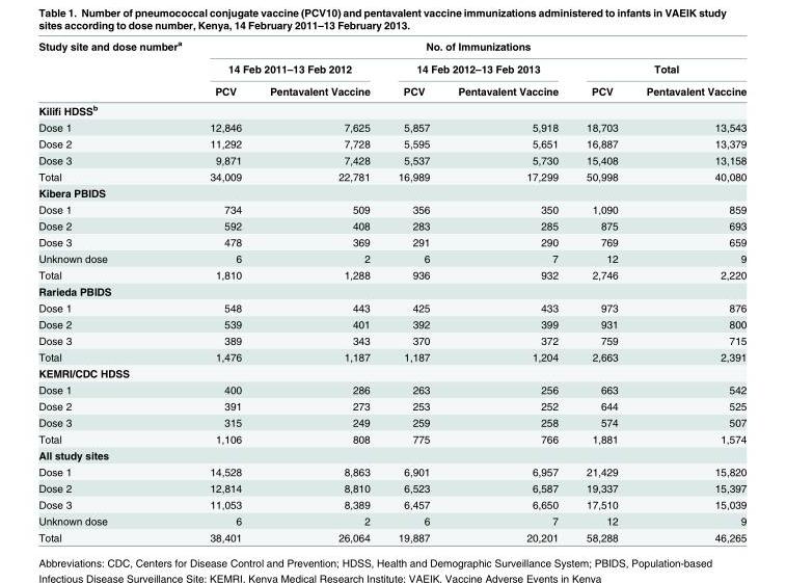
<table><thead><tr><td rowspan="3">Study site and dose number<sup>a</sup></td><td colspan="6">No. of Immunizations</td></tr><tr><td colspan="2">14 Feb 2011–13 Feb 2012</td><td colspan="2">14 Feb 2012–13 Feb 2013</td><td colspan="2">Total</td></tr><tr><td>PCV</td><td>Pentavalent Vaccine</td><td>PCV</td><td>Pentavalent Vaccine</td><td>PCV</td><td>Pentavalent Vaccine</td></tr></thead><tbody><tr><td colspan="7">Kilifi HDSS<sup>b</sup></td></tr><tr><td>Dose 1</td><td>12,846</td><td>7,625</td><td>5,857</td><td>5,918</td><td>18,703</td><td>13,543</td></tr><tr><td>Dose 2</td><td>11,292</td><td>7,728</td><td>5,595</td><td>5,651</td><td>16,887</td><td>13,379</td></tr><tr><td>Dose 3</td><td>9,871</td><td>7,428</td><td>5,537</td><td>5,730</td><td>15,408</td><td>13,158</td></tr><tr><td>Total</td><td>34,009</td><td>22,781</td><td>16,989</td><td>17,299</td><td>50,998</td><td>40,080</td></tr><tr><td colspan="7">Kibera PBIDS</td></tr><tr><td>Dose 1</td><td>734</td><td>509</td><td>356</td><td>350</td><td>1,090</td><td>859</td></tr><tr><td>Dose 2</td><td>592</td><td>408</td><td>283</td><td>285</td><td>875</td><td>693</td></tr><tr><td>Dose 3</td><td>478</td><td>369</td><td>291</td><td>290</td><td>769</td><td>659</td></tr><tr><td>Unknown dose</td><td>6</td><td>2</td><td>6</td><td>7</td><td>12</td><td>9</td></tr><tr><td>Total</td><td>1,810</td><td>1,288</td><td>936</td><td>932</td><td>2,746</td><td>2,220</td></tr><tr><td colspan="7">Rarieda PBIDS</td></tr><tr><td>Dose 1</td><td>548</td><td>443</td><td>425</td><td>433</td><td>973</td><td>876</td></tr><tr><td>Dose 2</td><td>539</td><td>401</td><td>392</td><td>399</td><td>931</td><td>800</td></tr><tr><td>Dose 3</td><td>389</td><td>343</td><td>370</td><td>372</td><td>759</td><td>715</td></tr><tr><td>Total</td><td>1,476</td><td>1,187</td><td>1,187</td><td>1,204</td><td>2,663</td><td>2,391</td></tr><tr><td colspan="7">KEMRI/CDC HDSS</td></tr><tr><td>Dose 1</td><td>400</td><td>286</td><td>263</td><td>256</td><td>663</td><td>542</td></tr><tr><td>Dose 2</td><td>391</td><td>273</td><td>253</td><td>252</td><td>644</td><td>525</td></tr><tr><td>Dose 3</td><td>315</td><td>249</td><td>259</td><td>258</td><td>574</td><td>507</td></tr><tr><td>Total</td><td>1,106</td><td>808</td><td>775</td><td>766</td><td>1,881</td><td>1,574</td></tr><tr><td colspan="7">All study sites</td></tr><tr><td>Dose 1</td><td>14,528</td><td>8,863</td><td>6,901</td><td>6,957</td><td>21,429</td><td>15,820</td></tr><tr><td>Dose 2</td><td>12,814</td><td>8,810</td><td>6,523</td><td>6,587</td><td>19,337</td><td>15,397</td></tr><tr><td>Dose 3</td><td>11,053</td><td>8,389</td><td>6,457</td><td>6,650</td><td>17,510</td><td>15,039</td></tr><tr><td>Unknown dose</td><td>6</td><td>2</td><td>6</td><td>7</td><td>12</td><td>9</td></tr><tr><td>Total</td><td>38,401</td><td>26,064</td><td>19,887</td><td>20,201</td><td>58,288</td><td>46,265</td></tr></tbody></table>